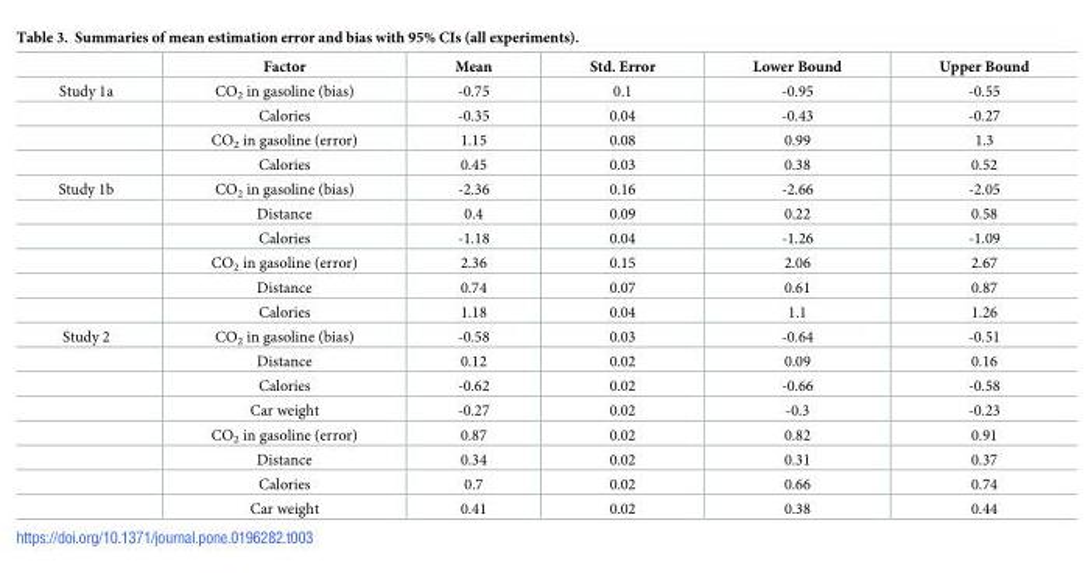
<table><thead><tr><td></td><td>Factor</td><td>Mean</td><td>Std. Error</td><td>Lower Bound</td><td>Upper Bound</td></tr></thead><tbody><tr><td rowspan="4">Study 1a</td><td>CO<sub>2</sub> in gasoline (bias)</td><td>-0.75</td><td>0.1</td><td>-0.95</td><td>-0.55</td></tr><tr><td>Calories</td><td>-0.35</td><td>0.04</td><td>-0.43</td><td>-0.27</td></tr><tr><td>CO<sub>2</sub> in gasoline (error)</td><td>1.15</td><td>0.08</td><td>0.99</td><td>1.3</td></tr><tr><td>Calories</td><td>0.45</td><td>0.03</td><td>0.38</td><td>0.52</td></tr><tr><td rowspan="6">Study 1b</td><td>CO<sub>2</sub> in gasoline (bias)</td><td>-2.36</td><td>0.16</td><td>-2.66</td><td>-2.05</td></tr><tr><td>Distance</td><td>0.4</td><td>0.09</td><td>0.22</td><td>0.58</td></tr><tr><td>Calories</td><td>-1.18</td><td>0.04</td><td>-1.26</td><td>-1.09</td></tr><tr><td>CO<sub>2</sub> in gasoline (error)</td><td>2.36</td><td>0.15</td><td>2.06</td><td>2.67</td></tr><tr><td>Distance</td><td>0.74</td><td>0.07</td><td>0.61</td><td>0.87</td></tr><tr><td>Calories</td><td>1.18</td><td>0.04</td><td>1.1</td><td>1.26</td></tr><tr><td rowspan="8">Study 2</td><td>CO<sub>2</sub> in gasoline (bias)</td><td>-0.58</td><td>0.03</td><td>-0.64</td><td>-0.51</td></tr><tr><td>Distance</td><td>0.12</td><td>0.02</td><td>0.09</td><td>0.16</td></tr><tr><td>Calories</td><td>-0.62</td><td>0.02</td><td>-0.66</td><td>-0.58</td></tr><tr><td>Car weight</td><td>-0.27</td><td>0.02</td><td>-0.3</td><td>-0.23</td></tr><tr><td>CO<sub>2</sub> in gasoline (error)</td><td>0.87</td><td>0.02</td><td>0.82</td><td>0.91</td></tr><tr><td>Distance</td><td>0.34</td><td>0.02</td><td>0.31</td><td>0.37</td></tr><tr><td>Calories</td><td>0.7</td><td>0.02</td><td>0.66</td><td>0.74</td></tr><tr><td>Car weight</td><td>0.41</td><td>0.02</td><td>0.38</td><td>0.44</td></tr></tbody></table>